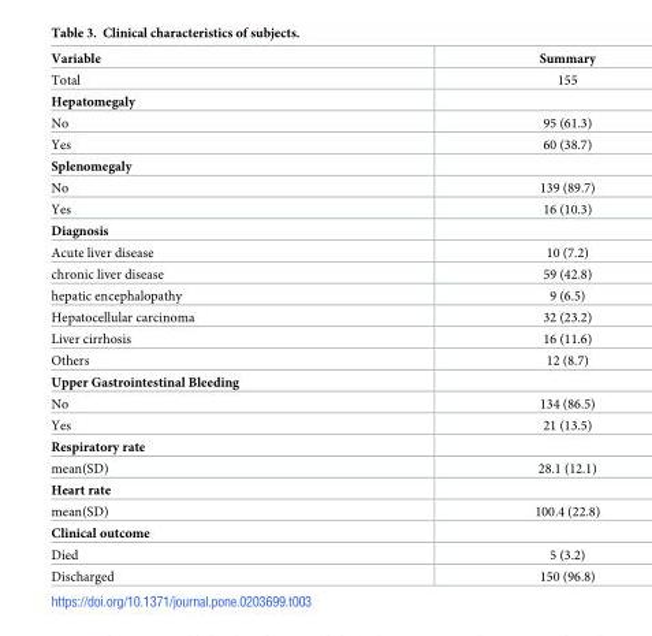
<table><thead><tr><td>Variable</td><td>Summary</td></tr></thead><tbody><tr><td>Total</td><td>155</td></tr><tr><td colspan="2">Hepatomegaly</td></tr><tr><td>No</td><td>95 (61.3)</td></tr><tr><td>Yes</td><td>60 (38.7)</td></tr><tr><td colspan="2">Splenomegaly</td></tr><tr><td>No</td><td>139 (89.7)</td></tr><tr><td>Yes</td><td>16 (10.3)</td></tr><tr><td colspan="2">Diagnosis</td></tr><tr><td>Acute liver disease</td><td>10 (7.2)</td></tr><tr><td>chronic liver disease</td><td>59 (42.8)</td></tr><tr><td>hepatic encephalopathy</td><td>9 (6.5)</td></tr><tr><td>Hepatocellular carcinoma</td><td>32 (23.2)</td></tr><tr><td>Liver cirrhosis</td><td>16 (11.6)</td></tr><tr><td>Others</td><td>12 (8.7)</td></tr><tr><td colspan="2">Upper Gastrointestinal Bleeding</td></tr><tr><td>No</td><td>134 (86.5)</td></tr><tr><td>Yes</td><td>21 (13.5)</td></tr><tr><td colspan="2">Respiratory rate</td></tr><tr><td>mean(SD)</td><td>28.1 (12.1)</td></tr><tr><td colspan="2">Heart rate</td></tr><tr><td>mean(SD)</td><td>100.4 (22.8)</td></tr><tr><td colspan="2">Clinical outcome</td></tr><tr><td>Died</td><td>5 (3.2)</td></tr><tr><td>Discharged</td><td>150 (96.8)</td></tr></tbody></table>